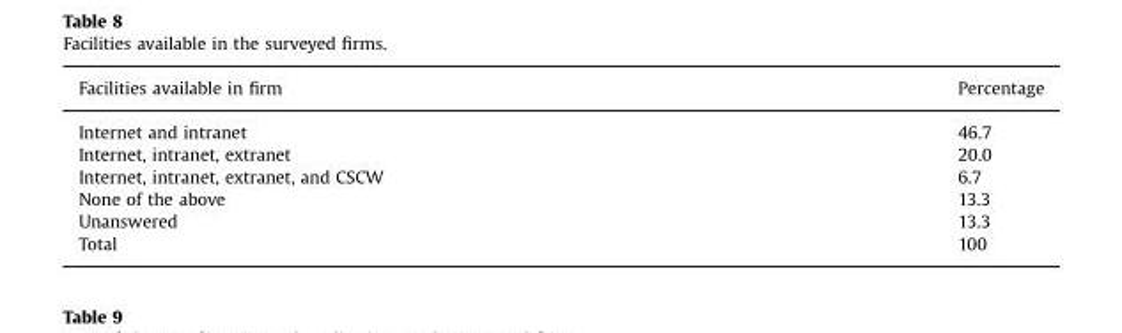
<table><thead><tr><td>Facilities available in firm</td><td>Percentage</td></tr></thead><tbody><tr><td>Internet and intranet</td><td>46.7</td></tr><tr><td>Internet, intranet, extranet</td><td>20.0</td></tr><tr><td>Internet, intranet, extranet, and CSCW</td><td>6.7</td></tr><tr><td>None of the above</td><td>13.3</td></tr><tr><td>Unanswered</td><td>13.3</td></tr><tr><td>Total</td><td>100</td></tr></tbody></table>